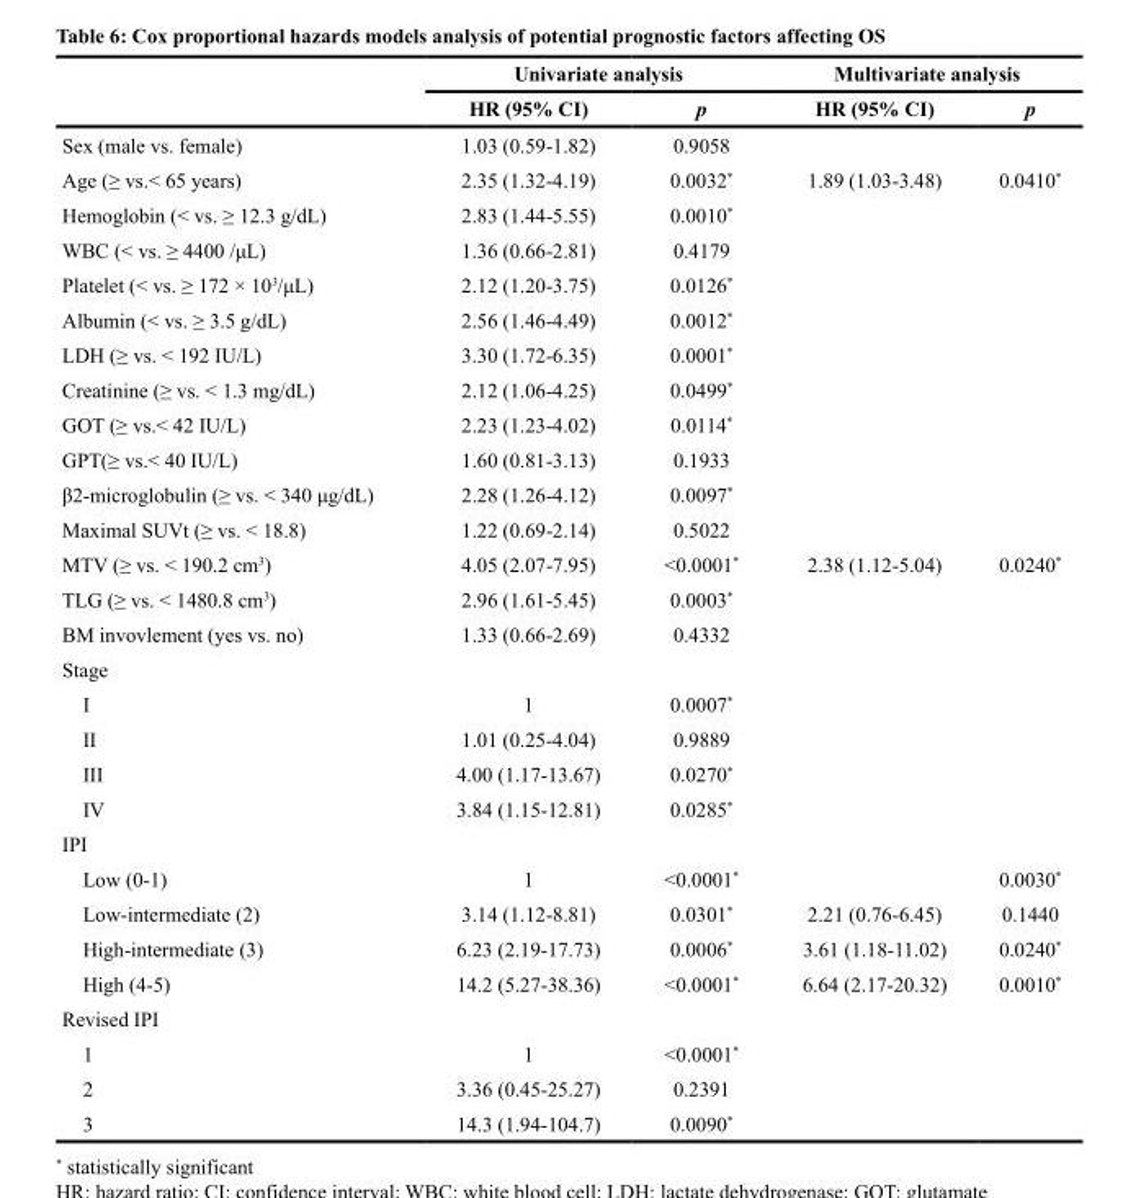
<table><thead><tr><td rowspan="2"></td><td colspan="2">Univariate analysis</td><td colspan="2">Multivariate analysis</td></tr><tr><td>HR (95% CI)</td><td>p</td><td>HR (95% CI)</td><td>p</td></tr></thead><tbody><tr><td>Sex (male vs. female)</td><td>1.03 (0.59-1.82)</td><td>0.9058</td><td></td><td></td></tr><tr><td>Age (≥ vs.&lt; 65 years)</td><td>2.35 (1.32-4.19)</td><td>0.0032*</td><td>1.89 (1.03-3.48)</td><td>0.0410*</td></tr><tr><td>Hemoglobin (&lt; vs. ≥ 12.3 g/dL)</td><td>2.83 (1.44-5.55)</td><td>0.0010*</td><td></td><td></td></tr><tr><td>WBC (&lt; vs. ≥ 4400 /μL)</td><td>1.36 (0.66-2.81)</td><td>0.4179</td><td></td><td></td></tr><tr><td>Platelet (&lt; vs. ≥ 172 × 10<sup>3</sup>/μL)</td><td>2.12 (1.20-3.75)</td><td>0.0126*</td><td></td><td></td></tr><tr><td>Albumin (&lt; vs. ≥ 3.5 g/dL)</td><td>2.56 (1.46-4.49)</td><td>0.0012*</td><td></td><td></td></tr><tr><td>LDH (≥ vs. &lt; 192 IU/L)</td><td>3.30 (1.72-6.35)</td><td>0.0001*</td><td></td><td></td></tr><tr><td>Creatinine (≥ vs. &lt; 1.3 mg/dL)</td><td>2.12 (1.06-4.25)</td><td>0.0499*</td><td></td><td></td></tr><tr><td>GOT (≥ vs.&lt; 42 IU/L)</td><td>2.23 (1.23-4.02)</td><td>0.0114*</td><td></td><td></td></tr><tr><td>GPT(≥ vs.&lt; 40 IU/L)</td><td>1.60 (0.81-3.13)</td><td>0.1933</td><td></td><td></td></tr><tr><td>β2-microglobulin (≥ vs. &lt; 340 μg/dL)</td><td>2.28 (1.26-4.12)</td><td>0.0097*</td><td></td><td></td></tr><tr><td>Maximal SUVt (≥ vs. &lt; 18.8)</td><td>1.22 (0.69-2.14)</td><td>0.5022</td><td></td><td></td></tr><tr><td>MTV (≥ vs. &lt; 190.2 cm<sup>3</sup>)</td><td>4.05 (2.07-7.95)</td><td>&lt;0.0001*</td><td>2.38 (1.12-5.04)</td><td>0.0240*</td></tr><tr><td>TLG (≥ vs. &lt; 1480.8 cm<sup>3</sup>)</td><td>2.96 (1.61-5.45)</td><td>0.0003*</td><td></td><td></td></tr><tr><td>BM invovlement (yes vs. no)</td><td>1.33 (0.66-2.69)</td><td>0.4332</td><td></td><td></td></tr><tr><td colspan="5">Stage</td></tr><tr><td>I</td><td>1</td><td>0.0007*</td><td></td><td></td></tr><tr><td>II</td><td>1.01 (0.25-4.04)</td><td>0.9889</td><td></td><td></td></tr><tr><td>III</td><td>4.00 (1.17-13.67)</td><td>0.0270*</td><td></td><td></td></tr><tr><td>IV</td><td>3.84 (1.15-12.81)</td><td>0.0285*</td><td></td><td></td></tr><tr><td colspan="5">IPI</td></tr><tr><td>Low (0-1)</td><td>1</td><td>&lt;0.0001*</td><td></td><td>0.0030*</td></tr><tr><td>Low-intermediate (2)</td><td>3.14 (1.12-8.81)</td><td>0.0301*</td><td>2.21 (0.76-6.45)</td><td>0.1440</td></tr><tr><td>High-intermediate (3)</td><td>6.23 (2.19-17.73)</td><td>0.0006*</td><td>3.61 (1.18-11.02)</td><td>0.0240*</td></tr><tr><td>High (4-5)</td><td>14.2 (5.27-38.36)</td><td>&lt;0.0001*</td><td>6.64 (2.17-20.32)</td><td>0.0010*</td></tr><tr><td colspan="5">Revised IPI</td></tr><tr><td>1</td><td>1</td><td>&lt;0.0001*</td><td></td><td></td></tr><tr><td>2</td><td>3.36 (0.45-25.27)</td><td>0.2391</td><td></td><td></td></tr><tr><td>3</td><td>14.3 (1.94-104.7)</td><td>0.0090*</td><td></td><td></td></tr></tbody></table>